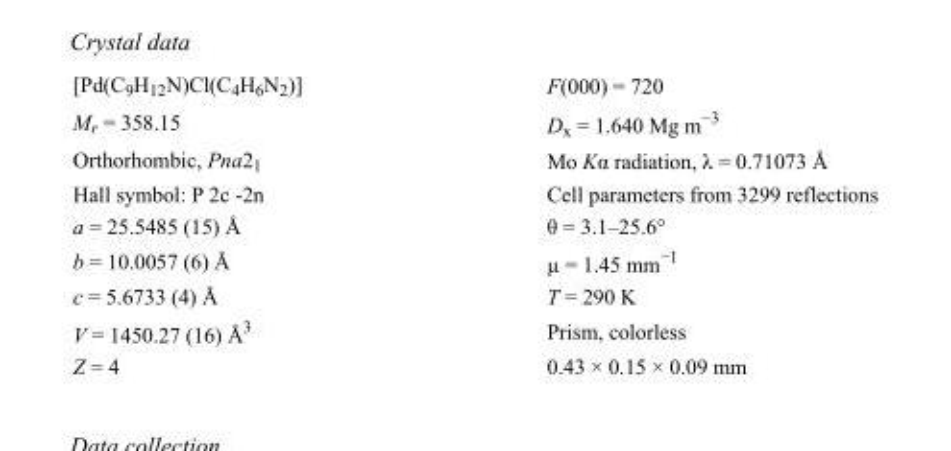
<table><tbody><tr><td>[Pd(C<sub>9</sub>H<sub>12</sub>N)Cl(C<sub>4</sub>H<sub>6</sub>N<sub>2</sub>)]</td><td>F(000) = 720</td></tr><tr><td>M<sub>r</sub> = 358.15</td><td>D<sub>x</sub> = 1.640 Mg m<sup>−3</sup></td></tr><tr><td>Orthorhombic, Pna2<sub>1</sub></td><td>Mo Kα radiation, λ = 0.71073 Å</td></tr><tr><td>Hall symbol: P 2c -2n</td><td>Cell parameters from 3299 reflections</td></tr><tr><td>a = 25.5485 (15) Å</td><td>θ = 3.1–25.6°</td></tr><tr><td>b = 10.0057 (6) Å</td><td>µ = 1.45 mm<sup>−1</sup></td></tr><tr><td>c = 5.6733 (4) Å</td><td>T = 290 K</td></tr><tr><td>V = 1450.27 (16) Å<sup>3</sup></td><td>Prism, colorless</td></tr><tr><td>Z = 4</td><td>0.43 × 0.15 × 0.09 mm</td></tr></tbody></table>